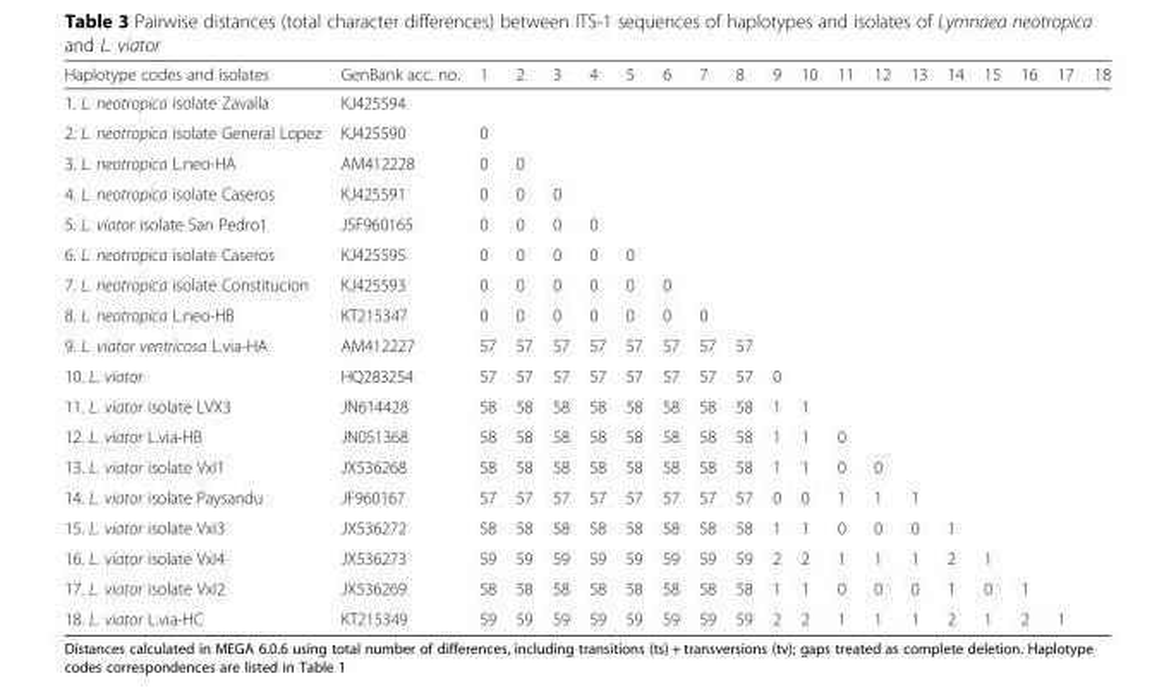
<table><thead><tr><td>Haplotype codes and isolates</td><td>GenBank acc. no.</td><td>1</td><td>2</td><td>3</td><td>4</td><td>5</td><td>6</td><td>7</td><td>8</td><td>9</td><td>10</td><td>11</td><td>12</td><td>13</td><td>14</td><td>15</td><td>16</td><td>17</td><td>18</td></tr></thead><tbody><tr><td>1. L. neotropica isolate Zavalla</td><td>KJ425594</td><td></td><td></td><td></td><td></td><td></td><td></td><td></td><td></td><td></td><td></td><td></td><td></td><td></td><td></td><td></td><td></td><td></td><td></td></tr><tr><td>2. L. neotropica isolate General Lopez</td><td>KJ425590</td><td>0</td><td></td><td></td><td></td><td></td><td></td><td></td><td></td><td></td><td></td><td></td><td></td><td></td><td></td><td></td><td></td><td></td><td></td></tr><tr><td>3. L. neotropica L.neo-HA</td><td>AM412228</td><td>0</td><td>0</td><td></td><td></td><td></td><td></td><td></td><td></td><td></td><td></td><td></td><td></td><td></td><td></td><td></td><td></td><td></td><td></td></tr><tr><td>4. L. neotropica isolate Caseros</td><td>KJ425591</td><td>0</td><td>0</td><td>0</td><td></td><td></td><td></td><td></td><td></td><td></td><td></td><td></td><td></td><td></td><td></td><td></td><td></td><td></td><td></td></tr><tr><td>5. L. viator isolate San Pedro1</td><td>J5F960165</td><td>0</td><td>0</td><td>0</td><td>0</td><td></td><td></td><td></td><td></td><td></td><td></td><td></td><td></td><td></td><td></td><td></td><td></td><td></td><td></td></tr><tr><td>6. L. neotropica isolate Caseros</td><td>KJ425595</td><td>0</td><td>0</td><td>0</td><td>0</td><td>0</td><td></td><td></td><td></td><td></td><td></td><td></td><td></td><td></td><td></td><td></td><td></td><td></td><td></td></tr><tr><td>7. L. neotropica isolate Constitucion</td><td>KJ425593</td><td>0</td><td>0</td><td>0</td><td>0</td><td>0</td><td>0</td><td></td><td></td><td></td><td></td><td></td><td></td><td></td><td></td><td></td><td></td><td></td><td></td></tr><tr><td>8. L. neotropica L.neo-HB</td><td>KT215347</td><td>0</td><td>0</td><td>0</td><td>0</td><td>0</td><td>0</td><td>0</td><td></td><td></td><td></td><td></td><td></td><td></td><td></td><td></td><td></td><td></td><td></td></tr><tr><td>9. L. viator ventricosa L.via-HA</td><td>AM412227</td><td>57</td><td>57</td><td>57</td><td>57</td><td>57</td><td>57</td><td>57</td><td>57</td><td></td><td></td><td></td><td></td><td></td><td></td><td></td><td></td><td></td><td></td></tr><tr><td>10. L. viator</td><td>HQ283254</td><td>57</td><td>57</td><td>57</td><td>57</td><td>57</td><td>57</td><td>57</td><td>57</td><td>0</td><td></td><td></td><td></td><td></td><td></td><td></td><td></td><td></td><td></td></tr><tr><td>11. L. viator isolate LVX3</td><td>JN614428</td><td>58</td><td>58</td><td>58</td><td>58</td><td>58</td><td>58</td><td>58</td><td>58</td><td>1</td><td>1</td><td></td><td></td><td></td><td></td><td></td><td></td><td></td><td></td></tr><tr><td>12. L. viator L.via-HB</td><td>JN051368</td><td>58</td><td>58</td><td>58</td><td>58</td><td>58</td><td>58</td><td>58</td><td>58</td><td>1</td><td>1</td><td>0</td><td></td><td></td><td></td><td></td><td></td><td></td><td></td></tr><tr><td>13. L. viator isolate VxI1</td><td>JX536268</td><td>58</td><td>58</td><td>58</td><td>58</td><td>58</td><td>58</td><td>58</td><td>58</td><td>1</td><td>1</td><td>0</td><td>0</td><td></td><td></td><td></td><td></td><td></td><td></td></tr><tr><td>14. L. viator isolate Paysandu</td><td>JF960167</td><td>57</td><td>57</td><td>57</td><td>57</td><td>57</td><td>57</td><td>57</td><td>57</td><td>0</td><td>0</td><td>1</td><td>1</td><td>1</td><td></td><td></td><td></td><td></td><td></td></tr><tr><td>15. L. viator isolate VxI3</td><td>JX536272</td><td>58</td><td>58</td><td>58</td><td>58</td><td>58</td><td>58</td><td>58</td><td>58</td><td>1</td><td>1</td><td>0</td><td>0</td><td>0</td><td>1</td><td></td><td></td><td></td><td></td></tr><tr><td>16. L. viator isolate VxI4</td><td>JX536273</td><td>59</td><td>59</td><td>59</td><td>59</td><td>59</td><td>59</td><td>59</td><td>59</td><td>2</td><td>2</td><td>1</td><td>1</td><td>1</td><td>2</td><td>1</td><td></td><td></td><td></td></tr><tr><td>17. L. viator isolate VxI2</td><td>JX536269</td><td>58</td><td>58</td><td>58</td><td>58</td><td>58</td><td>58</td><td>58</td><td>58</td><td>1</td><td>1</td><td>0</td><td>0</td><td>0</td><td>1</td><td>0</td><td>1</td><td></td><td></td></tr><tr><td>18. L. viator L.via-HC</td><td>KT215349</td><td>59</td><td>59</td><td>59</td><td>59</td><td>59</td><td>59</td><td>59</td><td>59</td><td>2</td><td>2</td><td>1</td><td>1</td><td>1</td><td>2</td><td>1</td><td>2</td><td>1</td><td></td></tr></tbody></table>